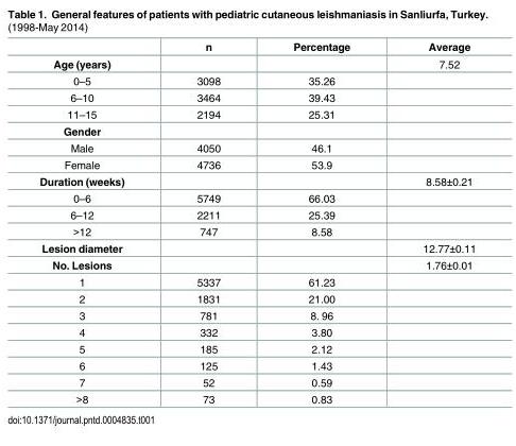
<table><thead><tr><td></td><td>n</td><td>Percentage</td><td>Average</td></tr></thead><tbody><tr><td>Age (years)</td><td></td><td></td><td>7.52</td></tr><tr><td>0–5</td><td>3098</td><td>35.26</td><td></td></tr><tr><td>6–10</td><td>3464</td><td>39.43</td><td></td></tr><tr><td>11–15</td><td>2194</td><td>25.31</td><td></td></tr><tr><td colspan="4">Gender</td></tr><tr><td>Male</td><td>4050</td><td>46.1</td><td></td></tr><tr><td>Female</td><td>4736</td><td>53.9</td><td></td></tr><tr><td>Duration (weeks)</td><td></td><td></td><td>8.58±0.21</td></tr><tr><td>0–6</td><td>5749</td><td>66.03</td><td></td></tr><tr><td>6–12</td><td>2211</td><td>25.39</td><td></td></tr><tr><td>&gt;12</td><td>747</td><td>8.58</td><td></td></tr><tr><td>Lesion diameter</td><td></td><td></td><td>12.77±0.11</td></tr><tr><td>No. Lesions</td><td></td><td></td><td>1.76±0.01</td></tr><tr><td>1</td><td>5337</td><td>61.23</td><td></td></tr><tr><td>2</td><td>1831</td><td>21.00</td><td></td></tr><tr><td>3</td><td>781</td><td>8. 96</td><td></td></tr><tr><td>4</td><td>332</td><td>3.80</td><td></td></tr><tr><td>5</td><td>185</td><td>2.12</td><td></td></tr><tr><td>6</td><td>125</td><td>1.43</td><td></td></tr><tr><td>7</td><td>52</td><td>0.59</td><td></td></tr><tr><td>&gt;8</td><td>73</td><td>0.83</td><td></td></tr></tbody></table>